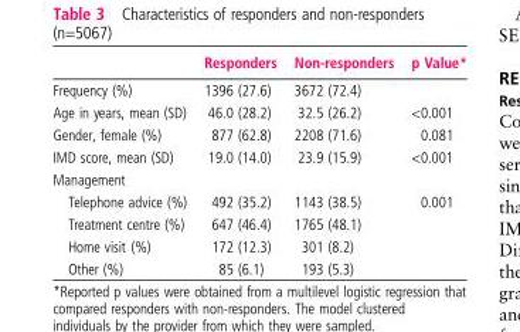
<table><thead><tr><td></td><td>Responders</td><td>Non-responders</td><td>p Value*</td></tr></thead><tbody><tr><td>Frequency (%)</td><td>1396 (27.6)</td><td>3672 (72.4)</td><td></td></tr><tr><td>Age in years, mean (SD)</td><td>46.0 (28.2)</td><td>32.5 (26.2)</td><td>&lt;0.001</td></tr><tr><td>Gender, female (%)</td><td>877 (62.8)</td><td>2208 (71.6)</td><td>0.081</td></tr><tr><td>IMD score, mean (SD)</td><td>19.0 (14.0)</td><td>23.9 (15.9)</td><td>&lt;0.001</td></tr><tr><td colspan="4">Management</td></tr><tr><td>Telephone advice (%)</td><td>492 (35.2)</td><td>1143 (38.5)</td><td rowspan="4">0.001</td></tr><tr><td>Treatment centre (%)</td><td>647 (46.4)</td><td>1765 (48.1)</td></tr><tr><td>Home visit (%)</td><td>172 (12.3)</td><td>301 (8.2)</td></tr><tr><td>Other (%)</td><td>85 (6.1)</td><td>193 (5.3)</td></tr></tbody></table>